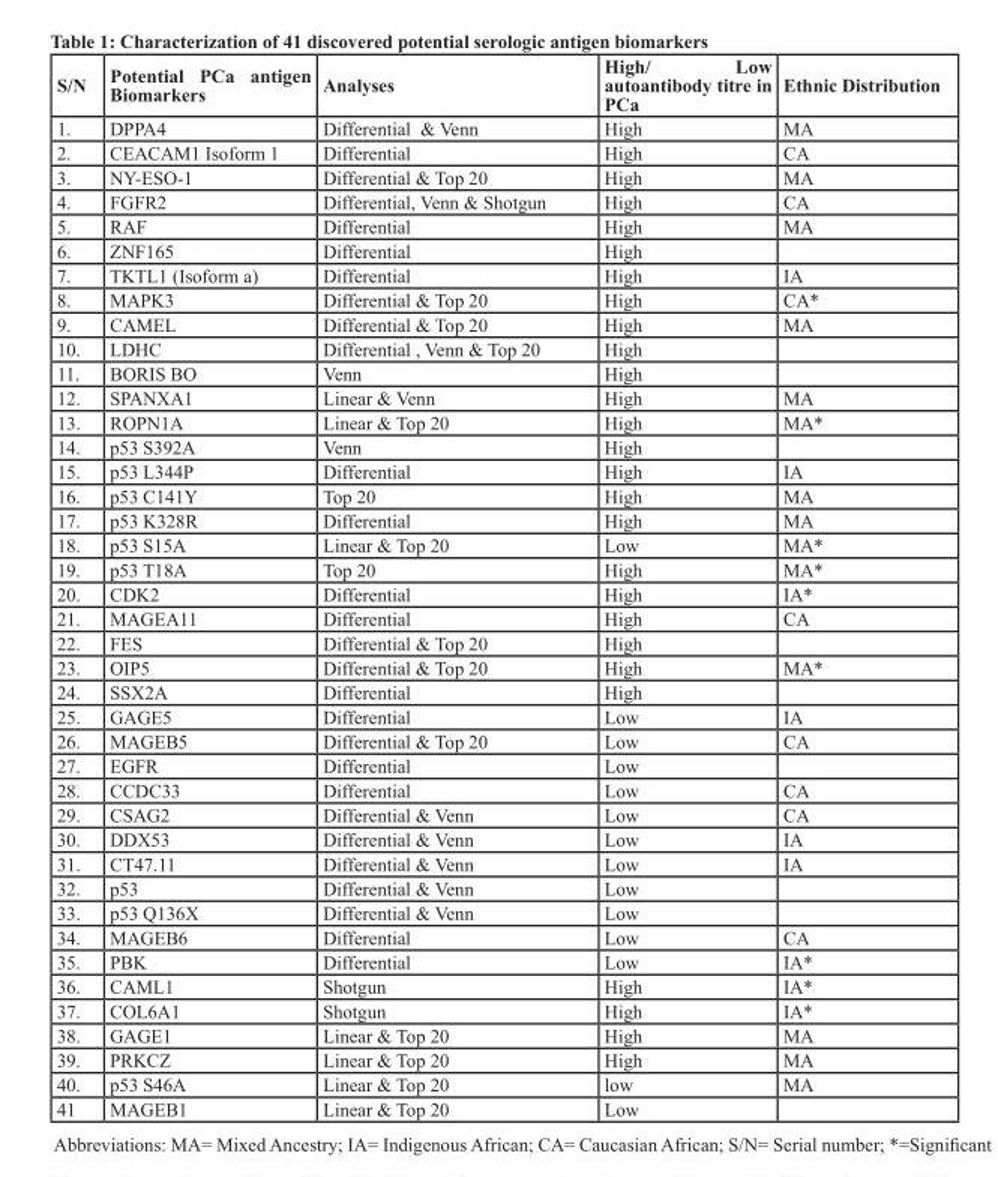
<table><thead><tr><td>S/N</td><td>Potential PCa antigen Biomarkers</td><td>Analyses</td><td>High/ Low autoantibody titre in PCa</td><td>Ethnic Distribution</td></tr></thead><tbody><tr><td>1.</td><td>DPPA4</td><td>Differential &amp; Venn</td><td>High</td><td>MA</td></tr><tr><td>2.</td><td>CEACAM1 Isoform 1</td><td>Differential</td><td>High</td><td>CA</td></tr><tr><td>3.</td><td>NY-ESO-1</td><td>Differential &amp; Top 20</td><td>High</td><td>MA</td></tr><tr><td>4.</td><td>FGFR2</td><td>Differential, Venn &amp; Shotgun</td><td>High</td><td>CA</td></tr><tr><td>5.</td><td>RAF</td><td>Differential</td><td>High</td><td>MA</td></tr><tr><td>6.</td><td>ZNF165</td><td>Differential</td><td>High</td><td></td></tr><tr><td>7.</td><td>TKTL1 (Isoform a)</td><td>Differential</td><td>High</td><td>IA</td></tr><tr><td>8.</td><td>MAPK3</td><td>Differential &amp; Top 20</td><td>High</td><td>CA*</td></tr><tr><td>9.</td><td>CAMEL</td><td>Differential &amp; Top 20</td><td>High</td><td>MA</td></tr><tr><td>10.</td><td>LDHC</td><td>Differential , Venn &amp; Top 20</td><td>High</td><td></td></tr><tr><td>11.</td><td>BORIS BO</td><td>Venn</td><td>High</td><td></td></tr><tr><td>12.</td><td>SPANXA1</td><td>Linear &amp; Venn</td><td>High</td><td>MA</td></tr><tr><td>13.</td><td>ROPN1A</td><td>Linear &amp; Top 20</td><td>High</td><td>MA*</td></tr><tr><td>14.</td><td>p53 S392A</td><td>Venn</td><td>High</td><td></td></tr><tr><td>15.</td><td>p53 L344P</td><td>Differential</td><td>High</td><td>IA</td></tr><tr><td>16.</td><td>p53 C141Y</td><td>Top 20</td><td>High</td><td>MA</td></tr><tr><td>17.</td><td>p53 K328R</td><td>Differential</td><td>High</td><td>MA</td></tr><tr><td>18.</td><td>p53 S15A</td><td>Linear &amp; Top 20</td><td>Low</td><td>MA*</td></tr><tr><td>19.</td><td>p53 T18A</td><td>Top 20</td><td>High</td><td>MA*</td></tr><tr><td>20.</td><td>CDK2</td><td>Differential</td><td>High</td><td>IA*</td></tr><tr><td>21.</td><td>MAGEA11</td><td>Differential</td><td>High</td><td>CA</td></tr><tr><td>22.</td><td>FES</td><td>Differential &amp; Top 20</td><td>High</td><td></td></tr><tr><td>23.</td><td>OIP5</td><td>Differential &amp; Top 20</td><td>High</td><td>MA*</td></tr><tr><td>24.</td><td>SSX2A</td><td>Differential</td><td>High</td><td></td></tr><tr><td>25.</td><td>GAGE5</td><td>Differential</td><td>Low</td><td>IA</td></tr><tr><td>26.</td><td>MAGEB5</td><td>Differential &amp; Top 20</td><td>Low</td><td>CA</td></tr><tr><td>27.</td><td>EGFR</td><td>Differential</td><td>Low</td><td></td></tr><tr><td>28.</td><td>CCDC33</td><td>Differential</td><td>Low</td><td>CA</td></tr><tr><td>29.</td><td>CSAG2</td><td>Differential &amp; Venn</td><td>Low</td><td>CA</td></tr><tr><td>30.</td><td>DDX53</td><td>Differential &amp; Venn</td><td>Low</td><td>IA</td></tr><tr><td>31.</td><td>CT47.11</td><td>Differential &amp; Venn</td><td>Low</td><td>IA</td></tr><tr><td>32.</td><td>p53</td><td>Differential &amp; Venn</td><td>Low</td><td></td></tr><tr><td>33.</td><td>p53 Q136X</td><td>Differential &amp; Venn</td><td>Low</td><td></td></tr><tr><td>34.</td><td>MAGEB6</td><td>Differential</td><td>Low</td><td>CA</td></tr><tr><td>35.</td><td>PBK</td><td>Differential</td><td>Low</td><td>IA*</td></tr><tr><td>36.</td><td>CAML1</td><td>Shotgun</td><td>High</td><td>IA*</td></tr><tr><td>37.</td><td>COL6A1</td><td>Shotgun</td><td>High</td><td>IA*</td></tr><tr><td>38.</td><td>GAGE1</td><td>Linear &amp; Top 20</td><td>High</td><td>MA</td></tr><tr><td>39.</td><td>PRKCZ</td><td>Linear &amp; Top 20</td><td>High</td><td>MA</td></tr><tr><td>40.</td><td>p53 S46A</td><td>Linear &amp; Top 20</td><td>low</td><td>MA</td></tr><tr><td>41</td><td>MAGEB1</td><td>Linear &amp; Top 20</td><td>Low</td><td></td></tr></tbody></table>